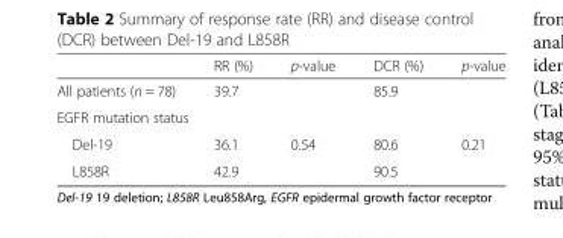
<table><thead><tr><td></td><td>RR (%)</td><td>p-value</td><td>DCR (%)</td><td>p-value</td></tr></thead><tbody><tr><td>All patients (n = 78)</td><td>39.7</td><td></td><td>85.9</td><td></td></tr><tr><td colspan="5">EGFR mutation status</td></tr><tr><td>Del-19</td><td>36.1</td><td>0.54</td><td>80.6</td><td>0.21</td></tr><tr><td>L858R</td><td>42.9</td><td></td><td>90.5</td><td></td></tr></tbody></table>